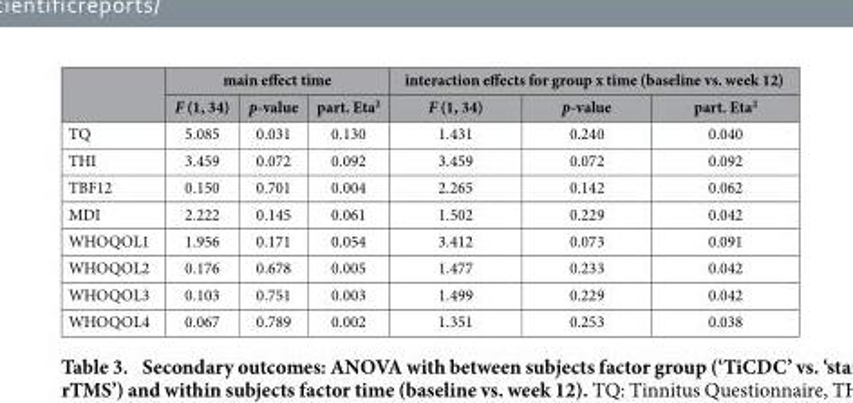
<table><thead><tr><td rowspan="2"></td><td colspan="3">main effect time</td><td colspan="3">interaction effects for group x time (baseline vs. week 12)</td></tr><tr><td>F (1, 34)</td><td>p-value</td><td>part. Eta<sup>2</sup></td><td>F (1, 34)</td><td>p-value</td><td>part. Eta<sup>2</sup></td></tr></thead><tbody><tr><td>TQ</td><td>5.085</td><td>0.031</td><td>0.130</td><td>1.431</td><td>0.240</td><td>0.040</td></tr><tr><td>THI</td><td>3.459</td><td>0.072</td><td>0.092</td><td>3.459</td><td>0.072</td><td>0.092</td></tr><tr><td>TBF12</td><td>0.150</td><td>0.701</td><td>0.004</td><td>2.265</td><td>0.142</td><td>0.062</td></tr><tr><td>MDI</td><td>2.222</td><td>0.145</td><td>0.061</td><td>1.502</td><td>0.229</td><td>0.042</td></tr><tr><td>WHOQOL1</td><td>1.956</td><td>0.171</td><td>0.054</td><td>3.412</td><td>0.073</td><td>0.091</td></tr><tr><td>WHOQOL2</td><td>0.176</td><td>0.678</td><td>0.005</td><td>1.477</td><td>0.233</td><td>0.042</td></tr><tr><td>WHOQOL3</td><td>0.103</td><td>0.751</td><td>0.003</td><td>1.499</td><td>0.229</td><td>0.042</td></tr><tr><td>WHOQOL4</td><td>0.067</td><td>0.789</td><td>0.002</td><td>1.351</td><td>0.253</td><td>0.038</td></tr></tbody></table>